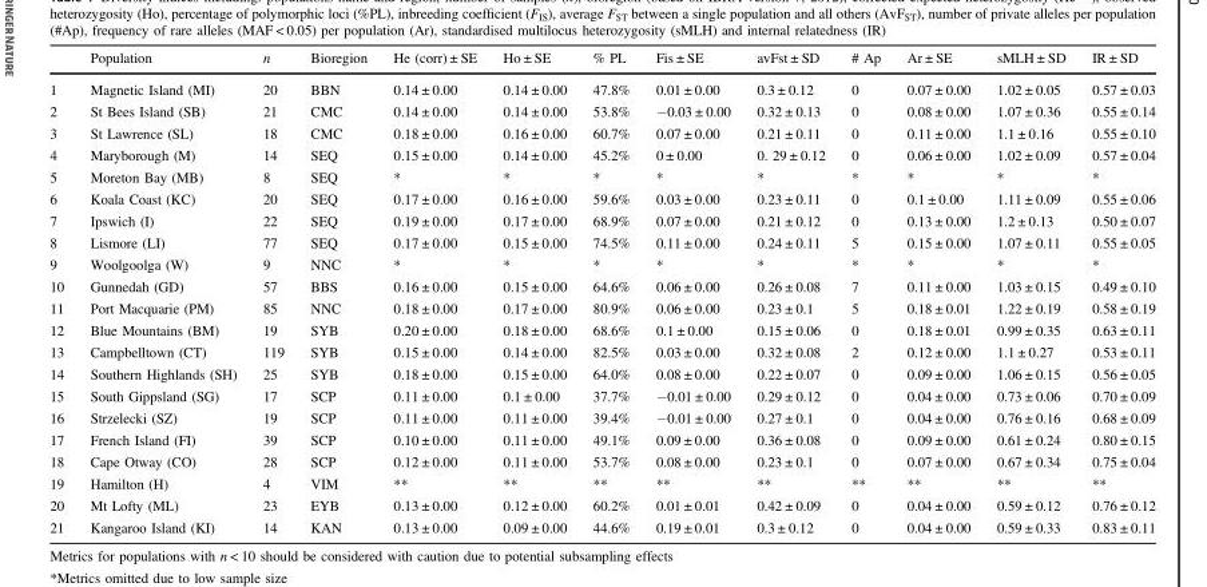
<table><thead><tr><td></td><td>Population</td><td>n</td><td>Bioregion</td><td>He (corr) ± SE</td><td>Ho ± SE</td><td>% PL</td><td>Fis ± SE</td><td>avFst ± SD</td><td># Ap</td><td>Ar ± SE</td><td>sMLH ± SD</td><td>IR ± SD</td></tr></thead><tbody><tr><td>1</td><td>Magnetic Island (MI)</td><td>20</td><td>BBN</td><td>0.14 ± 0.00</td><td>0.14 ± 0.00</td><td>47.8%</td><td>0.01 ± 0.00</td><td>0.3 ± 0.12</td><td>0</td><td>0.07 ± 0.00</td><td>1.02 ± 0.05</td><td>0.57 ± 0.03</td></tr><tr><td>2</td><td>St Bees Island (SB)</td><td>21</td><td>CMC</td><td>0.14 ± 0.00</td><td>0.14 ± 0.00</td><td>53.8%</td><td>−0.03 ± 0.00</td><td>0.32 ± 0.13</td><td>0</td><td>0.08 ± 0.00</td><td>1.07 ± 0.36</td><td>0.55 ± 0.14</td></tr><tr><td>3</td><td>St Lawrence (SL)</td><td>18</td><td>CMC</td><td>0.18 ± 0.00</td><td>0.16 ± 0.00</td><td>60.7%</td><td>0.07 ± 0.00</td><td>0.21 ± 0.11</td><td>0</td><td>0.11 ± 0.00</td><td>1.1 ± 0.16</td><td>0.55 ± 0.10</td></tr><tr><td>4</td><td>Maryborough (M)</td><td>14</td><td>SEQ</td><td>0.15 ± 0.00</td><td>0.14 ± 0.00</td><td>45.2%</td><td>0 ± 0.00</td><td>0. 29 ± 0.12</td><td>0</td><td>0.06 ± 0.00</td><td>1.02 ± 0.09</td><td>0.57 ± 0.04</td></tr><tr><td>5</td><td>Moreton Bay (MB)</td><td>8</td><td>SEQ</td><td>*</td><td>*</td><td>*</td><td>*</td><td>*</td><td>*</td><td>*</td><td>*</td><td>*</td></tr><tr><td>6</td><td>Koala Coast (KC)</td><td>20</td><td>SEQ</td><td>0.17 ± 0.00</td><td>0.16 ± 0.00</td><td>59.6%</td><td>0.03 ± 0.00</td><td>0.23 ± 0.11</td><td>0</td><td>0.1 ± 0.00</td><td>1.11 ± 0.09</td><td>0.55 ± 0.06</td></tr><tr><td>7</td><td>Ipswich (I)</td><td>22</td><td>SEQ</td><td>0.19 ± 0.00</td><td>0.17 ± 0.00</td><td>68.9%</td><td>0.07 ± 0.00</td><td>0.21 ± 0.12</td><td>0</td><td>0.13 ± 0.00</td><td>1.2 ± 0.13</td><td>0.50 ± 0.07</td></tr><tr><td>8</td><td>Lismore (LI)</td><td>77</td><td>SEQ</td><td>0.17 ± 0.00</td><td>0.15 ± 0.00</td><td>74.5%</td><td>0.11 ± 0.00</td><td>0.24 ± 0.11</td><td>5</td><td>0.15 ± 0.00</td><td>1.07 ± 0.11</td><td>0.55 ± 0.05</td></tr><tr><td>9</td><td>Woolgoolga (W)</td><td>9</td><td>NNC</td><td>*</td><td>*</td><td>*</td><td>*</td><td>*</td><td>*</td><td>*</td><td>*</td><td>*</td></tr><tr><td>10</td><td>Gunnedah (GD)</td><td>57</td><td>BBS</td><td>0.16 ± 0.00</td><td>0.15 ± 0.00</td><td>64.6%</td><td>0.06 ± 0.00</td><td>0.26 ± 0.08</td><td>7</td><td>0.11 ± 0.00</td><td>1.03 ± 0.15</td><td>0.49 ± 0.10</td></tr><tr><td>11</td><td>Port Macquarie (PM)</td><td>85</td><td>NNC</td><td>0.18 ± 0.00</td><td>0.17 ± 0.00</td><td>80.9%</td><td>0.06 ± 0.00</td><td>0.23 ± 0.1</td><td>5</td><td>0.18 ± 0.01</td><td>1.22 ± 0.19</td><td>0.58 ± 0.19</td></tr><tr><td>12</td><td>Blue Mountains (BM)</td><td>19</td><td>SYB</td><td>0.20 ± 0.00</td><td>0.18 ± 0.00</td><td>68.6%</td><td>0.1 ± 0.00</td><td>0.15 ± 0.06</td><td>0</td><td>0.18 ± 0.01</td><td>0.99 ± 0.35</td><td>0.63 ± 0.11</td></tr><tr><td>13</td><td>Campbelltown (CT)</td><td>119</td><td>SYB</td><td>0.15 ± 0.00</td><td>0.14 ± 0.00</td><td>82.5%</td><td>0.03 ± 0.00</td><td>0.32 ± 0.08</td><td>2</td><td>0.12 ± 0.00</td><td>1.1 ± 0.27</td><td>0.53 ± 0.11</td></tr><tr><td>14</td><td>Southern Highlands (SH)</td><td>25</td><td>SYB</td><td>0.18 ± 0.00</td><td>0.15 ± 0.00</td><td>64.0%</td><td>0.08 ± 0.00</td><td>0.22 ± 0.07</td><td>0</td><td>0.09 ± 0.00</td><td>1.06 ± 0.15</td><td>0.56 ± 0.05</td></tr><tr><td>15</td><td>South Gippsland (SG)</td><td>17</td><td>SCP</td><td>0.11 ± 0.00</td><td>0.1 ± 0.00</td><td>37.7%</td><td>−0.01 ± 0.00</td><td>0.29 ± 0.12</td><td>0</td><td>0.04 ± 0.00</td><td>0.73 ± 0.06</td><td>0.70 ± 0.09</td></tr><tr><td>16</td><td>Strzelecki (SZ)</td><td>19</td><td>SCP</td><td>0.11 ± 0.00</td><td>0.11 ± 0.00</td><td>39.4%</td><td>−0.01 ± 0.00</td><td>0.27 ± 0.1</td><td>0</td><td>0.04 ± 0.00</td><td>0.76 ± 0.16</td><td>0.68 ± 0.09</td></tr><tr><td>17</td><td>French Island (FI)</td><td>39</td><td>SCP</td><td>0.10 ± 0.00</td><td>0.11 ± 0.00</td><td>49.1%</td><td>0.09 ± 0.00</td><td>0.36 ± 0.08</td><td>0</td><td>0.09 ± 0.00</td><td>0.61 ± 0.24</td><td>0.80 ± 0.15</td></tr><tr><td>18</td><td>Cape Otway (CO)</td><td>28</td><td>SCP</td><td>0.12 ± 0.00</td><td>0.11 ± 0.00</td><td>53.7%</td><td>0.08 ± 0.00</td><td>0.23 ± 0.1</td><td>0</td><td>0.07 ± 0.00</td><td>0.67 ± 0.34</td><td>0.75 ± 0.04</td></tr><tr><td>19</td><td>Hamilton (H)</td><td>4</td><td>VIM</td><td>**</td><td>**</td><td>**</td><td>**</td><td>**</td><td>**</td><td>**</td><td>**</td><td>**</td></tr><tr><td>20</td><td>Mt Lofty (ML)</td><td>23</td><td>EYB</td><td>0.13 ± 0.00</td><td>0.12 ± 0.00</td><td>60.2%</td><td>0.01 ± 0.01</td><td>0.42 ± 0.09</td><td>0</td><td>0.04 ± 0.00</td><td>0.59 ± 0.12</td><td>0.76 ± 0.12</td></tr><tr><td>21</td><td>Kangaroo Island (KI)</td><td>14</td><td>KAN</td><td>0.13 ± 0.00</td><td>0.09 ± 0.00</td><td>44.6%</td><td>0.19 ± 0.01</td><td>0.3 ± 0.12</td><td>0</td><td>0.04 ± 0.00</td><td>0.59 ± 0.33</td><td>0.83 ± 0.11</td></tr></tbody></table>